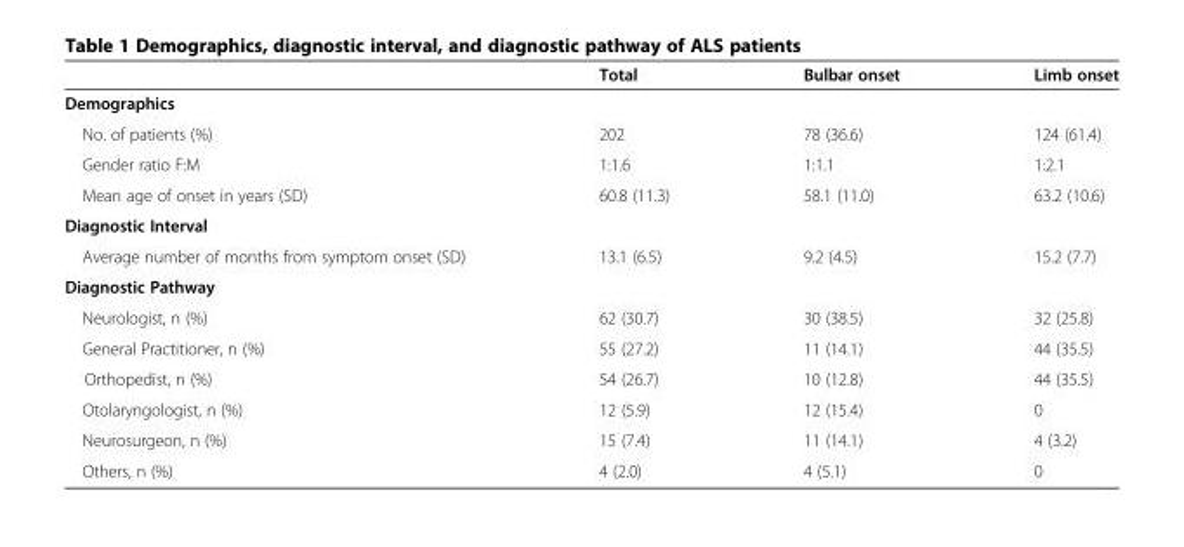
<table><thead><tr><td></td><td>Total</td><td>Bulbar onset</td><td>Limb onset</td></tr></thead><tbody><tr><td colspan="4">Demographics</td></tr><tr><td>No. of patients (%)</td><td>202</td><td>78 (36.6)</td><td>124 (61.4)</td></tr><tr><td>Gender ratio F:M</td><td>1:1.6</td><td>1:1.1</td><td>1:2.1</td></tr><tr><td>Mean age of onset in years (SD)</td><td>60.8 (11.3)</td><td>58.1 (11.0)</td><td>63.2 (10.6)</td></tr><tr><td colspan="4">Diagnostic Interval</td></tr><tr><td>Average number of months from symptom onset (SD)</td><td>13.1 (6.5)</td><td>9.2 (4.5)</td><td>15.2 (7.7)</td></tr><tr><td colspan="4">Diagnostic Pathway</td></tr><tr><td>Neurologist, n (%)</td><td>62 (30.7)</td><td>30 (38.5)</td><td>32 (25.8)</td></tr><tr><td>General Practitioner, n (%)</td><td>55 (27.2)</td><td>11 (14.1)</td><td>44 (35.5)</td></tr><tr><td>Orthopedist, n (%)</td><td>54 (26.7)</td><td>10 (12.8)</td><td>44 (35.5)</td></tr><tr><td>Otolaryngologist, n (%)</td><td>12 (5.9)</td><td>12 (15.4)</td><td>0</td></tr><tr><td>Neurosurgeon, n (%)</td><td>15 (7.4)</td><td>11 (14.1)</td><td>4 (3.2)</td></tr><tr><td>Others, n (%)</td><td>4 (2.0)</td><td>4 (5.1)</td><td>0</td></tr></tbody></table>